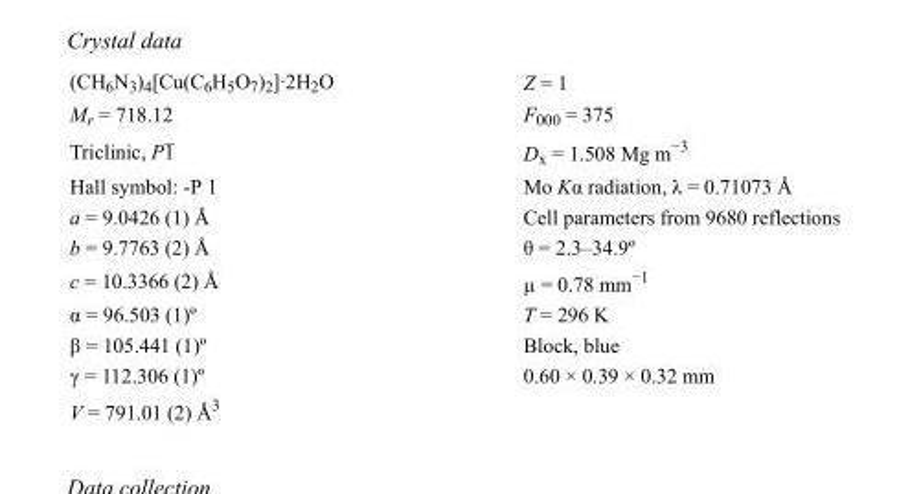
<table><tbody><tr><td>(CH<sub>6</sub>N<sub>3</sub>)<sub>4</sub>[Cu(C<sub>6</sub>H<sub>5</sub>O<sub>7</sub>)<sub>2</sub>]·2H<sub>2</sub>O</td><td>Z = 1</td></tr><tr><td>M<sub>r</sub> = 718.12</td><td>F000 = 375</td></tr><tr><td>Triclinic, P1</td><td>D<sub>x</sub> = 1.508 Mg m<sup>−3</sup></td></tr><tr><td>Hall symbol: -P 1</td><td>Mo Kα radiation, λ = 0.71073 Å</td></tr><tr><td>a = 9.0426 (1) Å</td><td>Cell parameters from 9680 reflections</td></tr><tr><td>b = 9.7763 (2) Å</td><td>θ = 2.3–34.9º</td></tr><tr><td>c = 10.3366 (2) Å</td><td>µ = 0.78 mm<sup>−1</sup></td></tr><tr><td>α = 96.503 (1)º</td><td>T = 296 K</td></tr><tr><td>β = 105.441 (1)º</td><td>Block, blue</td></tr><tr><td>γ = 112.306 (1)º</td><td>0.60 × 0.39 × 0.32 mm</td></tr><tr><td>V = 791.01 (2) Å<sup>3</sup></td><td></td></tr></tbody></table>